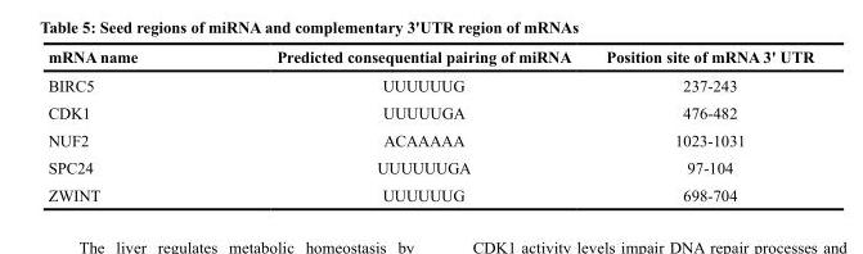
<table><thead><tr><td>mRNA name</td><td>Predicted consequential pairing of miRNA</td><td>Position site of mRNA 3&#x27; UTR</td></tr></thead><tbody><tr><td>BIRC5</td><td>UUUUUUG</td><td>237-243</td></tr><tr><td>CDK1</td><td>UUUUUGA</td><td>476-482</td></tr><tr><td>NUF2</td><td>ACAAAAA</td><td>1023-1031</td></tr><tr><td>SPC24</td><td>UUUUUUGA</td><td>97-104</td></tr><tr><td>ZWINT</td><td>UUUUUUG</td><td>698-704</td></tr></tbody></table>